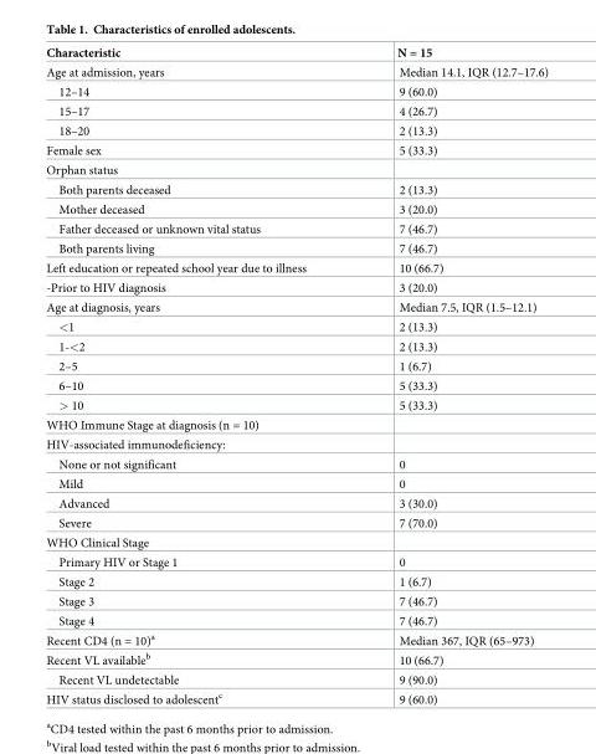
<table><thead><tr><td>Characteristic</td><td>N = 15</td></tr></thead><tbody><tr><td>Age at admission, years</td><td>Median 14.1, IQR (12.7–17.6)</td></tr><tr><td>12–14</td><td>9 (60.0)</td></tr><tr><td>15–17</td><td>4 (26.7)</td></tr><tr><td>18–20</td><td>2 (13.3)</td></tr><tr><td>Female sex</td><td>5 (33.3)</td></tr><tr><td colspan="2">Orphan status</td></tr><tr><td>Both parents deceased</td><td>2 (13.3)</td></tr><tr><td>Mother deceased</td><td>3 (20.0)</td></tr><tr><td>Father deceased or unknown vital status</td><td>7 (46.7)</td></tr><tr><td>Both parents living</td><td>7 (46.7)</td></tr><tr><td>Left education or repeated school year due to illness</td><td>10 (66.7)</td></tr><tr><td>-Prior to HIV diagnosis</td><td>3 (20.0)</td></tr><tr><td>Age at diagnosis, years</td><td>Median 7.5, IQR (1.5–12.1)</td></tr><tr><td>&lt;1</td><td>2 (13.3)</td></tr><tr><td>1-&lt;2</td><td>2 (13.3)</td></tr><tr><td>2–5</td><td>1 (6.7)</td></tr><tr><td>6–10</td><td>5 (33.3)</td></tr><tr><td>&gt; 10</td><td>5 (33.3)</td></tr><tr><td colspan="2">WHO Immune Stage at diagnosis (n = 10)</td></tr><tr><td colspan="2">HIV-associated immunodeficiency:</td></tr><tr><td>None or not significant</td><td>0</td></tr><tr><td>Mild</td><td>0</td></tr><tr><td>Advanced</td><td>3 (30.0)</td></tr><tr><td>Severe</td><td>7 (70.0)</td></tr><tr><td colspan="2">WHO Clinical Stage</td></tr><tr><td>Primary HIV or Stage 1</td><td>0</td></tr><tr><td>Stage 2</td><td>1 (6.7)</td></tr><tr><td>Stage 3</td><td>7 (46.7)</td></tr><tr><td>Stage 4</td><td>7 (46.7)</td></tr><tr><td>Recent CD4 (n = 10)<sup>a</sup></td><td>Median 367, IQR (65–973)</td></tr><tr><td>Recent VL available<sup>b</sup></td><td>10 (66.7)</td></tr><tr><td>Recent VL undetectable</td><td>9 (90.0)</td></tr><tr><td>HIV status disclosed to adolescent<sup>c</sup></td><td>9 (60.0)</td></tr></tbody></table>